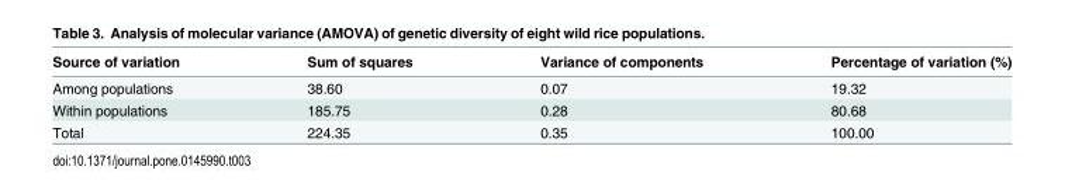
<table><thead><tr><td>Source of variation</td><td>Sum of squares</td><td>Variance of components</td><td>Percentage of variation (%)</td></tr></thead><tbody><tr><td>Among populations</td><td>38.60</td><td>0.07</td><td>19.32</td></tr><tr><td>Within populations</td><td>185.75</td><td>0.28</td><td>80.68</td></tr><tr><td>Total</td><td>224.35</td><td>0.35</td><td>100.00</td></tr></tbody></table>